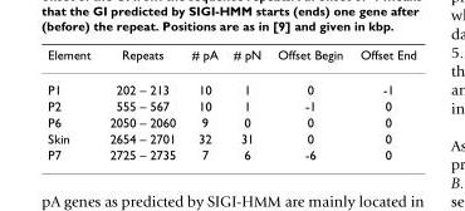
<table><thead><tr><td>Element</td><td>Repeats</td><td># pA</td><td># pN</td><td>Offset Begin</td><td>Offset End</td></tr></thead><tbody><tr><td>P1</td><td>202 – 213</td><td>10</td><td>1</td><td>0</td><td>-1</td></tr><tr><td>P2</td><td>555 – 567</td><td>10</td><td>1</td><td>-1</td><td>0</td></tr><tr><td>P6</td><td>2050 – 2060</td><td>9</td><td>0</td><td>0</td><td>0</td></tr><tr><td>Skin</td><td>2654 – 2701</td><td>32</td><td>31</td><td>0</td><td>0</td></tr><tr><td>P7</td><td>2725 – 2735</td><td>7</td><td>6</td><td>-6</td><td>0</td></tr></tbody></table>